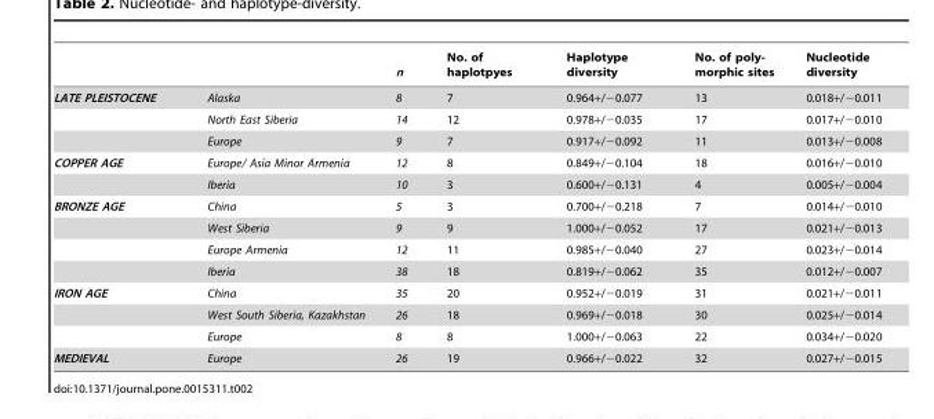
<table><thead><tr><td></td><td></td><td>n</td><td>No. of haplotpyes</td><td>Haplotype diversity</td><td>No. of poly- morphic sites</td><td>Nucleotide diversity</td></tr></thead><tbody><tr><td rowspan="3">LATE PLEISTOCENE</td><td>Alaska</td><td>8</td><td>7</td><td>0.964+/−0.077</td><td>13</td><td>0.018+/−0.011</td></tr><tr><td>North East Siberia</td><td>14</td><td>12</td><td>0.978+/−0.035</td><td>17</td><td>0.017+/−0.010</td></tr><tr><td>Europe</td><td>9</td><td>7</td><td>0.917+/−0.092</td><td>11</td><td>0.013+/−0.008</td></tr><tr><td rowspan="2">COPPER AGE</td><td>Europe/ Asia Minor Armenia</td><td>12</td><td>8</td><td>0.849+/−0.104</td><td>18</td><td>0.016+/−0.010</td></tr><tr><td>Iberia</td><td>10</td><td>3</td><td>0.600+/−0.131</td><td>4</td><td>0.005+/−0.004</td></tr><tr><td rowspan="4">BRONZE AGE</td><td>China</td><td>5</td><td>3</td><td>0.700+/−0.218</td><td>7</td><td>0.014+/−0.010</td></tr><tr><td>West Siberia</td><td>9</td><td>9</td><td>1.000+/−0.052</td><td>17</td><td>0.021+/−0.013</td></tr><tr><td>Europe Armenia</td><td>12</td><td>11</td><td>0.985+/−0.040</td><td>27</td><td>0.023+/−0.014</td></tr><tr><td>Iberia</td><td>38</td><td>18</td><td>0.819+/−0.062</td><td>35</td><td>0.012+/−0.007</td></tr><tr><td rowspan="3">IRON AGE</td><td>China</td><td>35</td><td>20</td><td>0.952+/−0.019</td><td>31</td><td>0.021+/−0.011</td></tr><tr><td>West South Siberia, Kazakhstan</td><td>26</td><td>18</td><td>0.969+/−0.018</td><td>30</td><td>0.025+/−0.014</td></tr><tr><td>Europe</td><td>8</td><td>8</td><td>1.000+/−0.063</td><td>22</td><td>0.034+/−0.020</td></tr><tr><td>MEDIEVAL</td><td>Europe</td><td>26</td><td>19</td><td>0.966+/−0.022</td><td>32</td><td>0.027+/−0.015</td></tr></tbody></table>